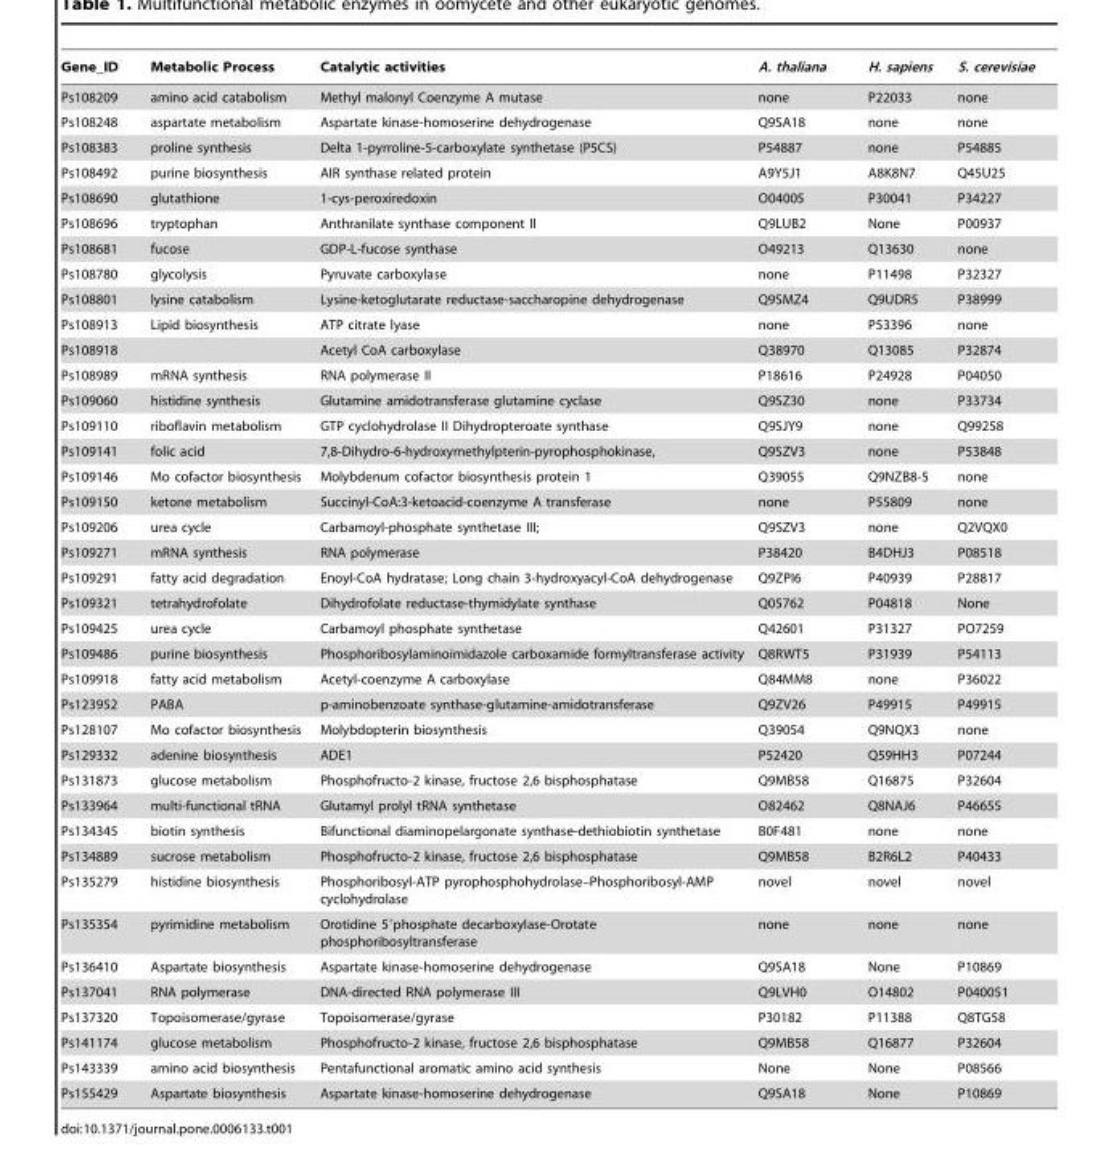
<table><thead><tr><td>Gene_ID</td><td>Metabolic Process</td><td>Catalytic activities</td><td>A. thaliana</td><td>H. sapiens</td><td>S. cerevisiae</td></tr></thead><tbody><tr><td>Ps108209</td><td>amino acid catabolism</td><td>Methyl malonyl Coenzyme A mutase</td><td>none</td><td>P22033</td><td>none</td></tr><tr><td>Ps108248</td><td>aspartate metabolism</td><td>Aspartate kinase-homoserine dehydrogenase</td><td>Q9SA18</td><td>none</td><td>none</td></tr><tr><td>Ps108383</td><td>proline synthesis</td><td>Delta 1-pyrroline-5-carboxylate synthetase (P5CS)</td><td>P54887</td><td>none</td><td>P54885</td></tr><tr><td>Ps108492</td><td>purine biosynthesis</td><td>AIR synthase related protein</td><td>A9Y5J1</td><td>A8K8N7</td><td>Q45U25</td></tr><tr><td>Ps108690</td><td>glutathione</td><td>1-cys-peroxiredoxin</td><td>O04005</td><td>P30041</td><td>P34227</td></tr><tr><td>Ps108696</td><td>tryptophan</td><td>Anthranilate synthase component II</td><td>Q9LUB2</td><td>None</td><td>P00937</td></tr><tr><td>Ps108681</td><td>fucose</td><td>GDP-L-fucose synthase</td><td>O49213</td><td>Q13630</td><td>none</td></tr><tr><td>Ps108780</td><td>glycolysis</td><td>Pyruvate carboxylase</td><td>none</td><td>P11498</td><td>P32327</td></tr><tr><td>Ps108801</td><td>lysine catabolism</td><td>Lysine-ketoglutarate reductase-saccharopine dehydrogenase</td><td>Q9SMZ4</td><td>Q9UDR5</td><td>P38999</td></tr><tr><td>Ps108913</td><td>Lipid biosynthesis</td><td>ATP citrate lyase</td><td>none</td><td>P53396</td><td>none</td></tr><tr><td>Ps108918</td><td></td><td>Acetyl CoA carboxylase</td><td>Q38970</td><td>Q13085</td><td>P32874</td></tr><tr><td>Ps108989</td><td>mRNA synthesis</td><td>RNA polymerase II</td><td>P18616</td><td>P24928</td><td>P04050</td></tr><tr><td>Ps109060</td><td>histidine synthesis</td><td>Glutamine amidotransferase glutamine cyclase</td><td>Q9SZ30</td><td>none</td><td>P33734</td></tr><tr><td>Ps109110</td><td>riboflavin metabolism</td><td>GTP cyclohydrolase II Dihydropteroate synthase</td><td>Q9SJY9</td><td>none</td><td>Q99258</td></tr><tr><td>Ps109141</td><td>folic acid</td><td>7,8-Dihydro-6-hydroxymethylpterin-pyrophosphokinase,</td><td>Q9SZV3</td><td>none</td><td>P53848</td></tr><tr><td>Ps109146</td><td>Mo cofactor biosynthesis</td><td>Molybdenum cofactor biosynthesis protein 1</td><td>Q39055</td><td>Q9NZB8-5</td><td>none</td></tr><tr><td>Ps109150</td><td>ketone metabolism</td><td>Succinyl-CoA:3-ketoacid-coenzyme A transferase</td><td>none</td><td>P55809</td><td>none</td></tr><tr><td>Ps109206</td><td>urea cycle</td><td>Carbamoyl-phosphate synthetase III;</td><td>Q9SZV3</td><td>none</td><td>Q2VQX0</td></tr><tr><td>Ps109271</td><td>mRNA synthesis</td><td>RNA polymerase</td><td>P38420</td><td>B4DHJ3</td><td>P08518</td></tr><tr><td>Ps109291</td><td>fatty acid degradation</td><td>Enoyl-CoA hydratase; Long chain 3-hydroxyacyl-CoA dehydrogenase</td><td>Q9ZPI6</td><td>P40939</td><td>P28817</td></tr><tr><td>Ps109321</td><td>tetrahydrofolate</td><td>Dihydrofolate reductase-thymidylate synthase</td><td>Q05762</td><td>P04818</td><td>None</td></tr><tr><td>Ps109425</td><td>urea cycle</td><td>Carbamoyl phosphate synthetase</td><td>Q42601</td><td>P31327</td><td>PO7259</td></tr><tr><td>Ps109486</td><td>purine biosynthesis</td><td>Phosphoribosylaminoimidazole carboxamide formyltransferase activity</td><td>Q8RWT5</td><td>P31939</td><td>P54113</td></tr><tr><td>Ps109918</td><td>fatty acid metabolism</td><td>Acetyl-coenzyme A carboxylase</td><td>Q84MM8</td><td>none</td><td>P36022</td></tr><tr><td>Ps123952</td><td>PABA</td><td>p-aminobenzoate synthase-glutamine-amidotransferase</td><td>Q9ZV26</td><td>P49915</td><td>P49915</td></tr><tr><td>Ps128107</td><td>Mo cofactor biosynthesis</td><td>Molybdopterin biosynthesis</td><td>Q39054</td><td>Q9NQX3</td><td>none</td></tr><tr><td>Ps129332</td><td>adenine biosynthesis</td><td>ADE1</td><td>P52420</td><td>Q59HH3</td><td>P07244</td></tr><tr><td>Ps131873</td><td>glucose metabolism</td><td>Phosphofructo-2 kinase, fructose 2,6 bisphosphatase</td><td>Q9MB58</td><td>Q16875</td><td>P32604</td></tr><tr><td>Ps133964</td><td>multi-functional tRNA</td><td>Glutamyl prolyl tRNA synthetase</td><td>O82462</td><td>Q8NAJ6</td><td>P46655</td></tr><tr><td>Ps134345</td><td>biotin synthesis</td><td>Bifunctional diaminopelargonate synthase-dethiobiotin synthetase</td><td>B0F481</td><td>none</td><td>none</td></tr><tr><td>Ps134889</td><td>sucrose metabolism</td><td>Phosphofructo-2 kinase, fructose 2,6 bisphosphatase</td><td>Q9MB58</td><td>B2R6L2</td><td>P40433</td></tr><tr><td>Ps135279</td><td>histidine biosynthesis</td><td>Phosphoribosyl-ATP pyrophosphohydrolase–Phosphoribosyl-AMP cyclohydrolase</td><td>novel</td><td>novel</td><td>novel</td></tr><tr><td>Ps135354</td><td>pyrimidine metabolism</td><td>Orotidine 5′phosphate decarboxylase-Orotate phosphoribosyltransferase</td><td>none</td><td>none</td><td>none</td></tr><tr><td>Ps136410</td><td>Aspartate biosynthesis</td><td>Aspartate kinase-homoserine dehydrogenase</td><td>Q9SA18</td><td>None</td><td>P10869</td></tr><tr><td>Ps137041</td><td>RNA polymerase</td><td>DNA-directed RNA polymerase III</td><td>Q9LVH0</td><td>O14802</td><td>P040051</td></tr><tr><td>Ps137320</td><td>Topoisomerase/gyrase</td><td>Topoisomerase/gyrase</td><td>P30182</td><td>P11388</td><td>Q8TG58</td></tr><tr><td>Ps141174</td><td>glucose metabolism</td><td>Phosphofructo-2 kinase, fructose 2,6 bisphosphatase</td><td>Q9MB58</td><td>Q16877</td><td>P32604</td></tr><tr><td>Ps143339</td><td>amino acid biosynthesis</td><td>Pentafunctional aromatic amino acid synthesis</td><td>None</td><td>None</td><td>P08566</td></tr><tr><td>Ps155429</td><td>Aspartate biosynthesis</td><td>Aspartate kinase-homoserine dehydrogenase</td><td>Q9SA18</td><td>None</td><td>P10869</td></tr></tbody></table>